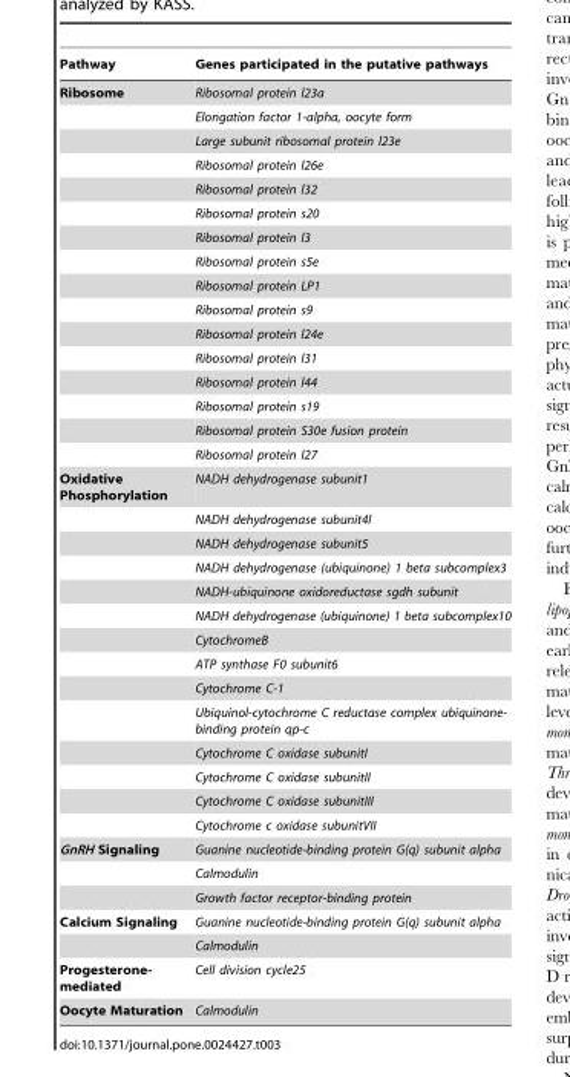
<table><thead><tr><td>Pathway</td><td>Genes participated in the putative pathways</td></tr></thead><tbody><tr><td rowspan="16">Ribosome</td><td>Ribosomal protein l23a</td></tr><tr><td>Elongation factor 1-alpha, oocyte form</td></tr><tr><td>Large subunit ribosomal protein l23e</td></tr><tr><td>Ribosomal protein l26e</td></tr><tr><td>Ribosomal protein l32</td></tr><tr><td>Ribosomal protein s20</td></tr><tr><td>Ribosomal protein l3</td></tr><tr><td>Ribosomal protein s5e</td></tr><tr><td>Ribosomal protein LP1</td></tr><tr><td>Ribosomal protein s9</td></tr><tr><td>Ribosomal protein l24e</td></tr><tr><td>Ribosomal protein l31</td></tr><tr><td>Ribosomal protein l44</td></tr><tr><td>Ribosomal protein s19</td></tr><tr><td>Ribosomal protein S30e fusion protein</td></tr><tr><td>Ribosomal protein l27</td></tr><tr><td rowspan="14">Oxidative Phosphorylation</td><td>NADH dehydrogenase subunit1</td></tr><tr><td>NADH dehydrogenase subunit4l</td></tr><tr><td>NADH dehydrogenase subunit5</td></tr><tr><td>NADH dehydrogenase (ubiquinone) 1 beta subcomplex3</td></tr><tr><td>NADH-ubiquinone oxidoreductase sgdh subunit</td></tr><tr><td>NADH dehydrogenase (ubiquinone) 1 beta subcomplex10</td></tr><tr><td>CytochromeB</td></tr><tr><td>ATP synthase F0 subunit6</td></tr><tr><td>Cytochrome C-1</td></tr><tr><td>Ubiquinol-cytochrome C reductase complex ubiquinone- binding protein qp-c</td></tr><tr><td>Cytochrome C oxidase subunitI</td></tr><tr><td>Cytochrome C oxidase subunitII</td></tr><tr><td>Cytochrome C oxidase subunitIII</td></tr><tr><td>Cytochrome c oxidase subunitVII</td></tr><tr><td rowspan="3">GnRH Signaling</td><td>Guanine nucleotide-binding protein G(q) subunit alpha</td></tr><tr><td>Calmodulin</td></tr><tr><td>Growth factor receptor-binding protein</td></tr><tr><td rowspan="2">Calcium Signaling</td><td>Guanine nucleotide-binding protein G(q) subunit alpha</td></tr><tr><td>Calmodulin</td></tr><tr><td>Progesterone- mediated</td><td>Cell division cycle25</td></tr><tr><td>Oocyte Maturation</td><td>Calmodulin</td></tr></tbody></table>